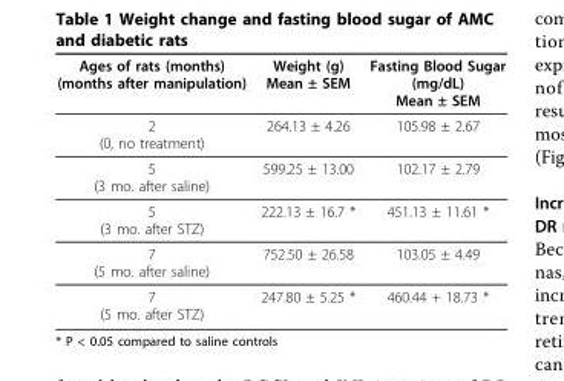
<table><thead><tr><td>Ages of rats (months) (months after manipulation)</td><td>Weight (g) Mean ± SEM</td><td>Fasting Blood Sugar (mg/dL) Mean ± SEM</td></tr></thead><tbody><tr><td>2 (0, no treatment)</td><td>264.13 ± 4.26</td><td>105.98 ± 2.67</td></tr><tr><td>5 (3 mo. after saline)</td><td>599.25 ± 13.00</td><td>102.17 ± 2.79</td></tr><tr><td>5 (3 mo. after STZ)</td><td>222.13 ± 16.7 *</td><td>451.13 ± 11.61 *</td></tr><tr><td>7 (5 mo. after saline)</td><td>752.50 ± 26.58</td><td>103.05 ± 4.49</td></tr><tr><td>7 (5 mo. after STZ)</td><td>247.80 ± 5.25 *</td><td>460.44 + 18.73 *</td></tr></tbody></table>